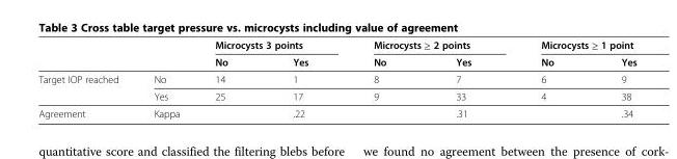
<table><thead><tr><td rowspan="2"></td><td rowspan="2"></td><td colspan="2">Microcysts 3 points</td><td colspan="2">Microcysts ≥ 2 points</td><td colspan="2">Microcysts ≥ 1 point</td></tr><tr><td>No</td><td>Yes</td><td>No</td><td>Yes</td><td>No</td><td>Yes</td></tr></thead><tbody><tr><td rowspan="2">Target IOP reached</td><td>No</td><td>14</td><td>1</td><td>8</td><td>7</td><td>6</td><td>9</td></tr><tr><td>Yes</td><td>25</td><td>17</td><td>9</td><td>33</td><td>4</td><td>38</td></tr><tr><td>Agreement</td><td>Kappa</td><td></td><td>.22</td><td></td><td>.31</td><td></td><td>.34</td></tr></tbody></table>